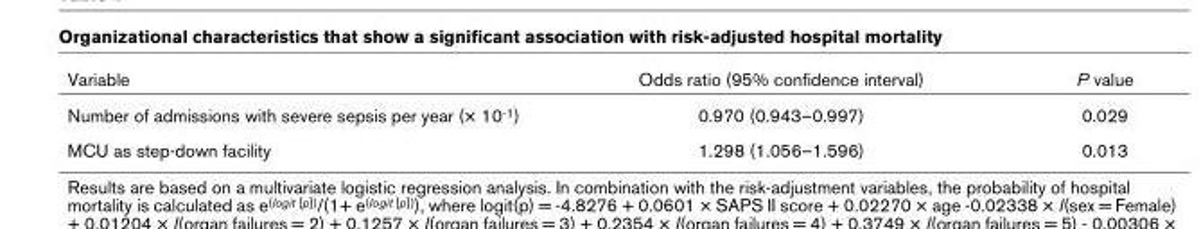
<table><thead><tr><td>Variable</td><td>Odds ratio (95% confidence interval)</td><td>P value</td></tr></thead><tbody><tr><td>Number of admissions with severe sepsis per year (× 10<sup>-1</sup>)</td><td>0.970 (0.943–0.997)</td><td>0.029</td></tr><tr><td>MCU as step-down facility</td><td>1.298 (1.056–1.596)</td><td>0.013</td></tr></tbody></table>